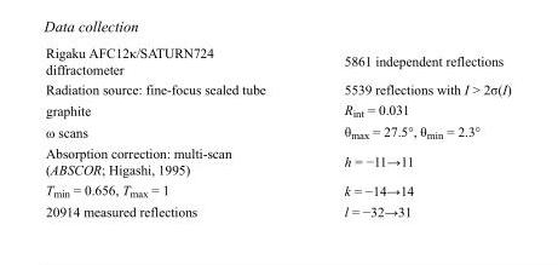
<table><tbody><tr><td>Rigaku AFC12κ/SATURN724 diffractometer</td><td>5861 independent reflections</td></tr><tr><td>Radiation source: fine-focus sealed tube</td><td>5539 reflections with I &gt; 2σ(I)</td></tr><tr><td>graphite</td><td>R<sub>int</sub> = 0.031</td></tr><tr><td>ω scans</td><td>θ<sub>max</sub> = 27.5°, θ<sub>min</sub> = 2.3°</td></tr><tr><td>Absorption correction: multi-scan (ABSCOR; Higashi, 1995)</td><td>h = −11→11</td></tr><tr><td>T<sub>min</sub> = 0.656, T<sub>max</sub> = 1</td><td>k = −14→14</td></tr><tr><td>20914 measured reflections</td><td>l = −32→31</td></tr></tbody></table>